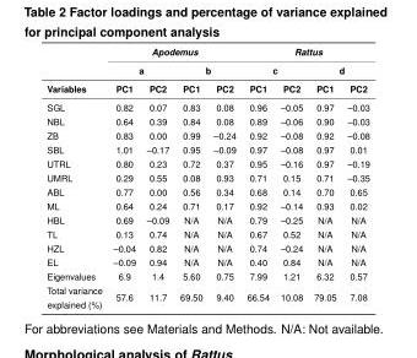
<table><thead><tr><td rowspan="3">Variables</td><td colspan="4">Apodemus</td><td colspan="4">Rattus</td></tr><tr><td colspan="2">a</td><td colspan="2">b</td><td colspan="2">c</td><td colspan="2">d</td></tr><tr><td>PC1</td><td>PC2</td><td>PC1</td><td>PC2</td><td>PC1</td><td>PC2</td><td>PC1</td><td>PC2</td></tr></thead><tbody><tr><td>SGL</td><td>0.82</td><td>0.07</td><td>0.83</td><td>0.08</td><td>0.96</td><td>–0.05</td><td>0.97</td><td>–0.03</td></tr><tr><td>NBL</td><td>0.64</td><td>0.39</td><td>0.84</td><td>0.08</td><td>0.89</td><td>–0.06</td><td>0.90</td><td>–0.03</td></tr><tr><td>ZB</td><td>0.83</td><td>0.00</td><td>0.99</td><td>–0.24</td><td>0.92</td><td>–0.08</td><td>0.92</td><td>–0.08</td></tr><tr><td>SBL</td><td>1.01</td><td>–0.17</td><td>0.95</td><td>–0.09</td><td>0.97</td><td>–0.08</td><td>0.97</td><td>0.01</td></tr><tr><td>UTRL</td><td>0.80</td><td>0.23</td><td>0.72</td><td>0.37</td><td>0.95</td><td>–0.16</td><td>0.97</td><td>–0.19</td></tr><tr><td>UMRL</td><td>0.29</td><td>0.55</td><td>0.08</td><td>0.93</td><td>0.71</td><td>0.15</td><td>0.71</td><td>–0.35</td></tr><tr><td>ABL</td><td>0.77</td><td>0.00</td><td>0.56</td><td>0.34</td><td>0.68</td><td>0.14</td><td>0.70</td><td>0.65</td></tr><tr><td>ML</td><td>0.64</td><td>0.24</td><td>0.71</td><td>0.17</td><td>0.92</td><td>–0.14</td><td>0.93</td><td>0.02</td></tr><tr><td>HBL</td><td>0.69</td><td>–0.09</td><td>N/A</td><td>N/A</td><td>0.79</td><td>–0.25</td><td>N/A</td><td>N/A</td></tr><tr><td>TL</td><td>0.13</td><td>0.74</td><td>N/A</td><td>N/A</td><td>0.67</td><td>0.52</td><td>N/A</td><td>N/A</td></tr><tr><td>HZL</td><td>–0.04</td><td>0.82</td><td>N/A</td><td>N/A</td><td>0.74</td><td>–0.24</td><td>N/A</td><td>N/A</td></tr><tr><td>EL</td><td>–0.09</td><td>0.94</td><td>N/A</td><td>N/A</td><td>0.40</td><td>0.84</td><td>N/A</td><td>N/A</td></tr><tr><td>Eigenvalues</td><td>6.9</td><td>1.4</td><td>5.60</td><td>0.75</td><td>7.99</td><td>1.21</td><td>6.32</td><td>0.57</td></tr><tr><td>Total variance explained (%)</td><td>57.6</td><td>11.7</td><td>69.50</td><td>9.40</td><td>66.54</td><td>10.08</td><td>79.05</td><td>7.08</td></tr></tbody></table>